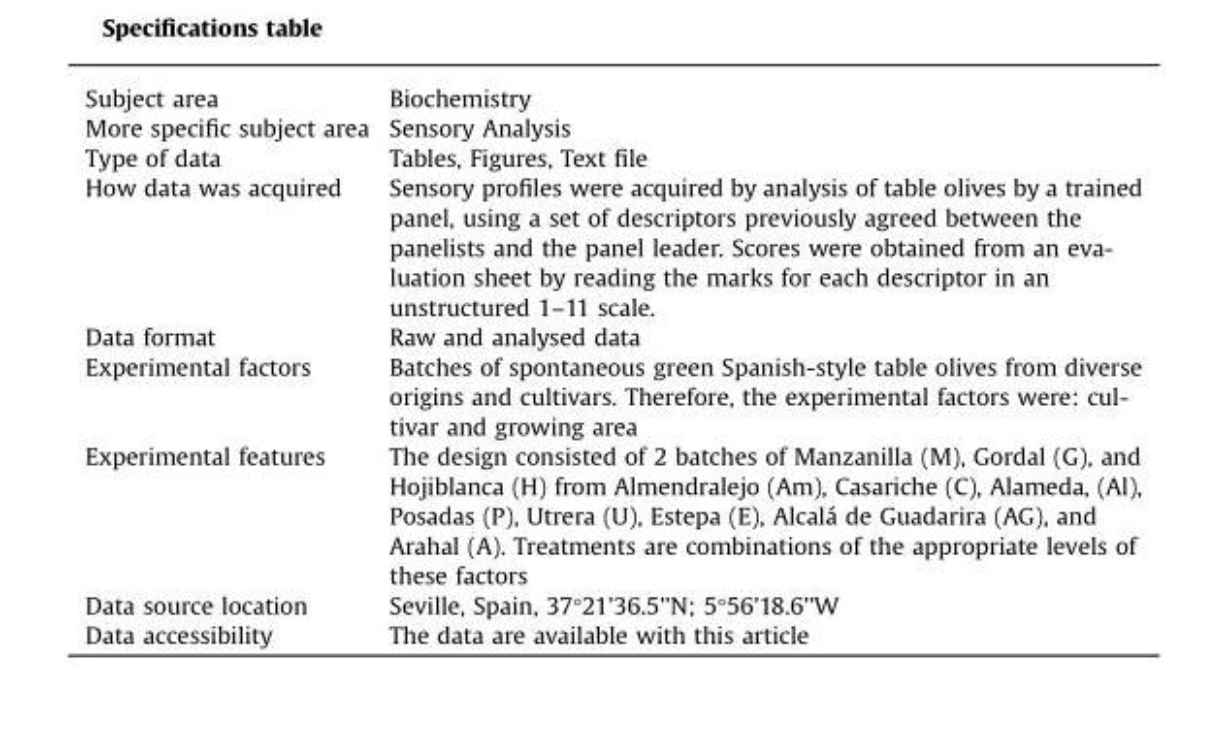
<table><tbody><tr><td>Subject area</td><td>Biochemistry</td></tr><tr><td>More specific subject area</td><td>Sensory Analysis</td></tr><tr><td>Type of data</td><td>Tables, Figures, Text file</td></tr><tr><td>How data was acquired</td><td>Sensory profiles were acquired by analysis of table olives by a trained panel, using a set of descriptors previously agreed between the panelists and the panel leader. Scores were obtained from an eva- luation sheet by reading the marks for each descriptor in an unstructured 1–11 scale.</td></tr><tr><td>Data format</td><td>Raw and analysed data</td></tr><tr><td>Experimental factors</td><td>Batches of spontaneous green Spanish-style table olives from diverse origins and cultivars. Therefore, the experimental factors were: cul- tivar and growing area</td></tr><tr><td>Experimental features</td><td>The design consisted of 2 batches of Manzanilla (M), Gordal (G), and Hojiblanca (H) from Almendralejo (Am), Casariche (C), Alameda, (Al), Posadas (P), Utrera (U), Estepa (E), Alcalá de Guadarira (AG), and Arahal (A). Treatments are combinations of the appropriate levels of these factors</td></tr><tr><td>Data source location</td><td>Seville, Spain, 37°21’36.5’’N; 5°56’18.6’’W</td></tr><tr><td>Data accessibility</td><td>The data are available with this article</td></tr></tbody></table>